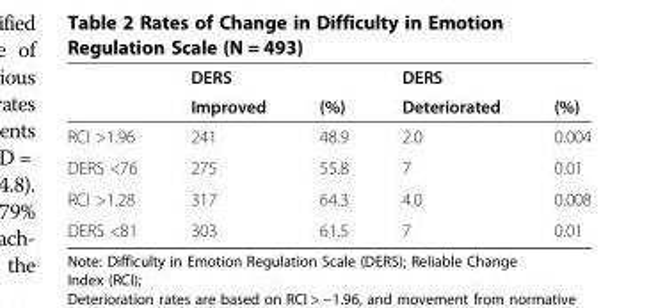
<table><thead><tr><td rowspan="2"></td><td rowspan="2">DERS Improved</td><td rowspan="2">(%)</td><td rowspan="2">DERS Deteriorated</td><td rowspan="2">(%)</td></tr><tr></tr></thead><tbody><tr><td>RCI &gt;1.96</td><td>241</td><td>48.9</td><td>2.0</td><td>0.004</td></tr><tr><td>DERS &lt;76</td><td>275</td><td>55.8</td><td>7</td><td>0.01</td></tr><tr><td>RCI &gt;1.28</td><td>317</td><td>64.3</td><td>4.0</td><td>0.008</td></tr><tr><td>DERS &lt;81</td><td>303</td><td>61.5</td><td>7</td><td>0.01</td></tr></tbody></table>